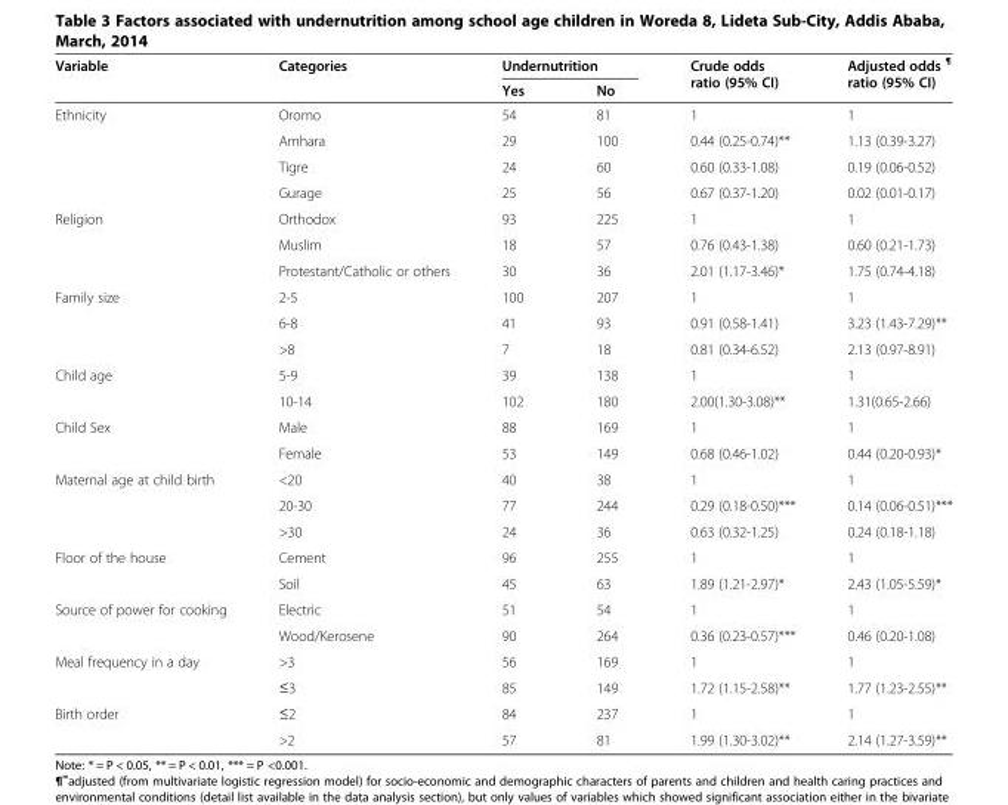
<table><thead><tr><td rowspan="2">Variable</td><td rowspan="2">Categories</td><td colspan="2">Undernutrition</td><td rowspan="2">Crude odds ratio (95% CI)</td><td rowspan="2">Adjusted odds <sup>¶</sup> ratio (95% CI)</td></tr><tr><td>Yes</td><td>No</td></tr></thead><tbody><tr><td rowspan="4">Ethnicity</td><td>Oromo</td><td>54</td><td>81</td><td>1</td><td>1</td></tr><tr><td>Amhara</td><td>29</td><td>100</td><td>0.44 (0.25-0.74)**</td><td>1.13 (0.39-3.27)</td></tr><tr><td>Tigre</td><td>24</td><td>60</td><td>0.60 (0.33-1.08)</td><td>0.19 (0.06-0.52)</td></tr><tr><td>Gurage</td><td>25</td><td>56</td><td>0.67 (0.37-1.20)</td><td>0.02 (0.01-0.17)</td></tr><tr><td rowspan="3">Religion</td><td>Orthodox</td><td>93</td><td>225</td><td>1</td><td>1</td></tr><tr><td>Muslim</td><td>18</td><td>57</td><td>0.76 (0.43-1.38)</td><td>0.60 (0.21-1.73)</td></tr><tr><td>Protestant/Catholic or others</td><td>30</td><td>36</td><td>2.01 (1.17-3.46)*</td><td>1.75 (0.74-4.18)</td></tr><tr><td rowspan="3">Family size</td><td>2-5</td><td>100</td><td>207</td><td>1</td><td>1</td></tr><tr><td>6-8</td><td>41</td><td>93</td><td>0.91 (0.58-1.41)</td><td>3.23 (1.43-7.29)**</td></tr><tr><td>&gt;8</td><td>7</td><td>18</td><td>0.81 (0.34-6.52)</td><td>2.13 (0.97-8.91)</td></tr><tr><td rowspan="2">Child age</td><td>5-9</td><td>39</td><td>138</td><td>1</td><td>1</td></tr><tr><td>10-14</td><td>102</td><td>180</td><td>2.00(1.30-3.08)**</td><td>1.31(0.65-2.66)</td></tr><tr><td rowspan="2">Child Sex</td><td>Male</td><td>88</td><td>169</td><td>1</td><td>1</td></tr><tr><td>Female</td><td>53</td><td>149</td><td>0.68 (0.46-1.02)</td><td>0.44 (0.20-0.93)*</td></tr><tr><td rowspan="3">Maternal age at child birth</td><td>&lt;20</td><td>40</td><td>38</td><td>1</td><td>1</td></tr><tr><td>20-30</td><td>77</td><td>244</td><td>0.29 (0.18-0.50)***</td><td>0.14 (0.06-0.51)***</td></tr><tr><td>&gt;30</td><td>24</td><td>36</td><td>0.63 (0.32-1.25)</td><td>0.24 (0.18-1.18)</td></tr><tr><td rowspan="2">Floor of the house</td><td>Cement</td><td>96</td><td>255</td><td>1</td><td>1</td></tr><tr><td>Soil</td><td>45</td><td>63</td><td>1.89 (1.21-2.97)*</td><td>2.43 (1.05-5.59)*</td></tr><tr><td rowspan="2">Source of power for cooking</td><td>Electric</td><td>51</td><td>54</td><td>1</td><td>1</td></tr><tr><td>Wood/Kerosene</td><td>90</td><td>264</td><td>0.36 (0.23-0.57)***</td><td>0.46 (0.20-1.08)</td></tr><tr><td rowspan="2">Meal frequency in a day</td><td>&gt;3</td><td>56</td><td>169</td><td>1</td><td>1</td></tr><tr><td>≤3</td><td>85</td><td>149</td><td>1.72 (1.15-2.58)**</td><td>1.77 (1.23-2.55)**</td></tr><tr><td rowspan="2">Birth order</td><td>≤2</td><td>84</td><td>237</td><td>1</td><td>1</td></tr><tr><td>&gt;2</td><td>57</td><td>81</td><td>1.99 (1.30-3.02)**</td><td>2.14 (1.27-3.59)**</td></tr></tbody></table>